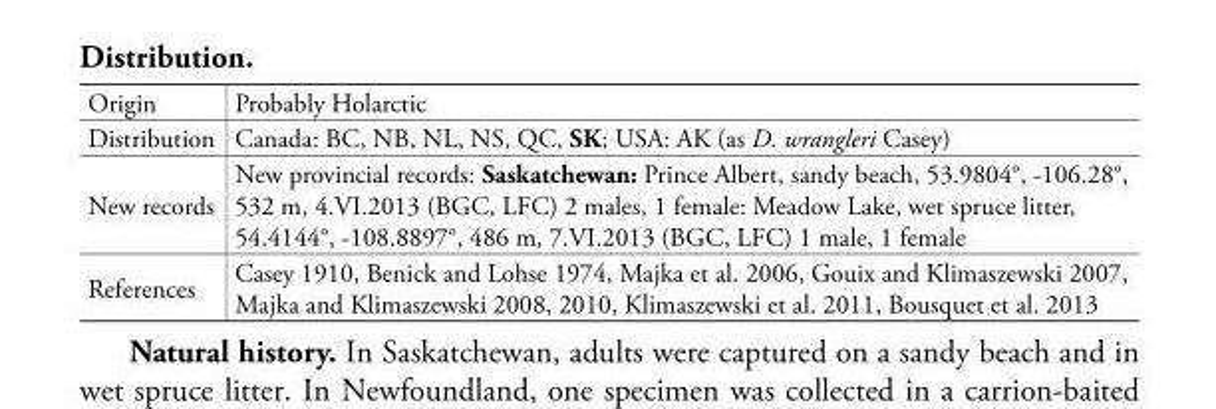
<table><tbody><tr><td>Origin</td><td>Probably Holarctic</td></tr><tr><td>Distribution</td><td>Canada: BC, NB, NL, NS, QC, SK; USA: AK (as D. wrangleri Casey)</td></tr><tr><td>New records</td><td>New provincial records: Saskatchewan: Prince Albert, sandy beach, 53.9804°, -106.28°, 532 m, 4.VI.2013 (BGC, LFC) 2 males, 1 female: Meadow Lake, wet spruce litter, 54.4144°, -108.8897°, 486 m, 7.VI.2013 (BGC, LFC) 1 male, 1 female</td></tr><tr><td>References</td><td>Casey 1910, Benick and Lohse 1974, Majka et al. 2006, Gouix and Klimaszewski 2007, Majka and Klimaszewski 2008, 2010, Klimaszewski et al. 2011, Bousquet et al. 2013</td></tr></tbody></table>